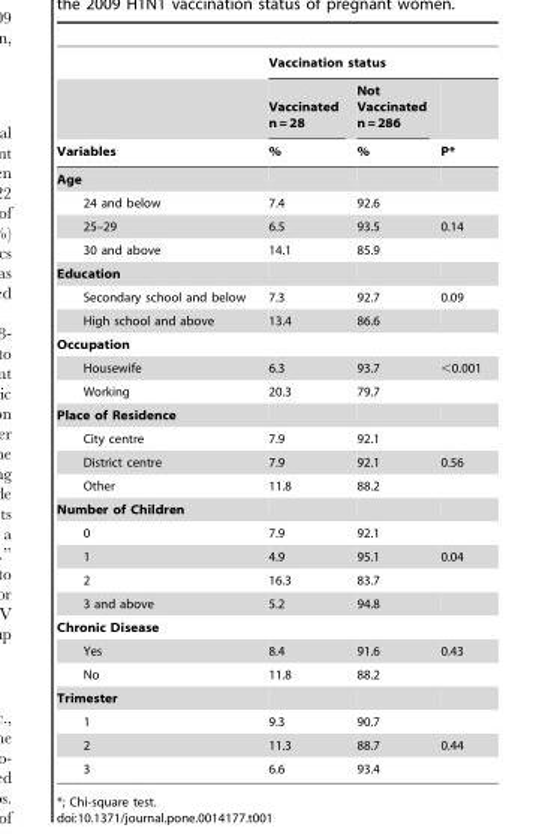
<table><thead><tr><td rowspan="3">Variables</td><td colspan="3">Vaccination status</td></tr><tr><td rowspan="2">Vaccinated n = 28 %</td><td rowspan="2">Not Vaccinated n = 286 %</td><td rowspan="2">P*</td></tr><tr></tr></thead><tbody><tr><td colspan="4">Age</td></tr><tr><td>24 and below</td><td>7.4</td><td>92.6</td><td></td></tr><tr><td>25–29</td><td>6.5</td><td>93.5</td><td>0.14</td></tr><tr><td>30 and above</td><td>14.1</td><td>85.9</td><td></td></tr><tr><td colspan="4">Education</td></tr><tr><td>Secondary school and below</td><td>7.3</td><td>92.7</td><td>0.09</td></tr><tr><td>High school and above</td><td>13.4</td><td>86.6</td><td></td></tr><tr><td colspan="4">Occupation</td></tr><tr><td>Housewife</td><td>6.3</td><td>93.7</td><td>&lt;0.001</td></tr><tr><td>Working</td><td>20.3</td><td>79.7</td><td></td></tr><tr><td colspan="4">Place of Residence</td></tr><tr><td>City centre</td><td>7.9</td><td>92.1</td><td></td></tr><tr><td>District centre</td><td>7.9</td><td>92.1</td><td>0.56</td></tr><tr><td>Other</td><td>11.8</td><td>88.2</td><td></td></tr><tr><td colspan="4">Number of Children</td></tr><tr><td>0</td><td>7.9</td><td>92.1</td><td></td></tr><tr><td>1</td><td>4.9</td><td>95.1</td><td>0.04</td></tr><tr><td>2</td><td>16.3</td><td>83.7</td><td></td></tr><tr><td>3 and above</td><td>5.2</td><td>94.8</td><td></td></tr><tr><td colspan="4">Chronic Disease</td></tr><tr><td>Yes</td><td>8.4</td><td>91.6</td><td>0.43</td></tr><tr><td>No</td><td>11.8</td><td>88.2</td><td></td></tr><tr><td colspan="4">Trimester</td></tr><tr><td>1</td><td>9.3</td><td>90.7</td><td></td></tr><tr><td>2</td><td>11.3</td><td>88.7</td><td>0.44</td></tr><tr><td>3</td><td>6.6</td><td>93.4</td><td></td></tr></tbody></table>